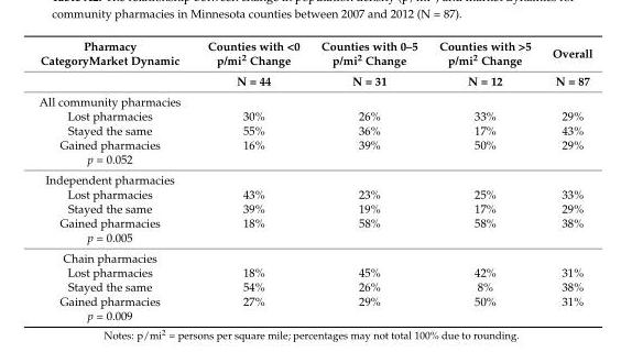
<table><thead><tr><td rowspan="2">Pharmacy CategoryMarket Dynamic</td><td rowspan="2">Counties with &lt;0 p/mi<sup>2</sup> Change N = 44</td><td rowspan="2">Counties with 0–5 p/mi<sup>2</sup> Change N = 31</td><td rowspan="2">Counties with &gt;5 p/mi<sup>2</sup> Change N = 12</td><td rowspan="2">Overall N = 87</td></tr><tr></tr></thead><tbody><tr><td colspan="5">All community pharmacies</td></tr><tr><td>Lost pharmacies</td><td>30%</td><td>26%</td><td>33%</td><td>29%</td></tr><tr><td>Stayed the same</td><td>55%</td><td>36%</td><td>17%</td><td>43%</td></tr><tr><td>Gained pharmacies</td><td>16%</td><td>39%</td><td>50%</td><td>29%</td></tr><tr><td colspan="5">p = 0.052</td></tr><tr><td colspan="5">Independent pharmacies</td></tr><tr><td>Lost pharmacies</td><td>43%</td><td>23%</td><td>25%</td><td>33%</td></tr><tr><td>Stayed the same</td><td>39%</td><td>19%</td><td>17%</td><td>29%</td></tr><tr><td>Gained pharmacies</td><td>18%</td><td>58%</td><td>58%</td><td>38%</td></tr><tr><td colspan="5">p = 0.005</td></tr><tr><td colspan="5">Chain pharmacies</td></tr><tr><td>Lost pharmacies</td><td>18%</td><td>45%</td><td>42%</td><td>31%</td></tr><tr><td>Stayed the same</td><td>54%</td><td>26%</td><td>8%</td><td>38%</td></tr><tr><td>Gained pharmacies</td><td>27%</td><td>29%</td><td>50%</td><td>31%</td></tr><tr><td>p = 0.009</td><td></td><td></td><td></td><td></td></tr></tbody></table>